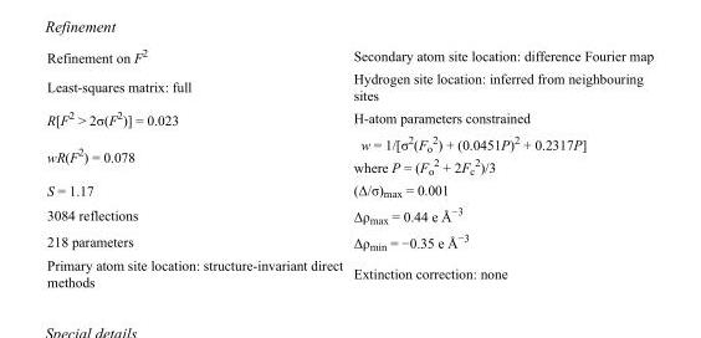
<table><tbody><tr><td>Refinement on F<sup>2</sup></td><td>Secondary atom site location: difference Fourier map</td></tr><tr><td>Least-squares matrix: full</td><td>Hydrogen site location: inferred from neighbouring sites</td></tr><tr><td>R[F<sup>2</sup> &gt; 2σ(F<sup>2</sup>)] = 0.023</td><td>H-atom parameters constrained</td></tr><tr><td>wR(F<sup>2</sup>) = 0.078</td><td>w = 1/[σ<sup>2</sup>(F<sub>o</sub> <sup>2</sup>) + (0.0451P)<sup>2</sup> + 0.2317P] where P = (F<sub>o</sub> <sup>2</sup> + 2F<sub>c</sub> <sup>2</sup>)/3</td></tr><tr><td>S = 1.17</td><td>(Δ/σ)<sub>max</sub> = 0.001</td></tr><tr><td>3084 reflections</td><td>Δρ<sub>max</sub> = 0.44 e Å<sup>−3</sup></td></tr><tr><td>218 parameters</td><td>Δρ<sub>min</sub> = −0.35 e Å<sup>−3</sup></td></tr><tr><td>Primary atom site location: structure-invariant direct methods</td><td>Extinction correction: none</td></tr></tbody></table>